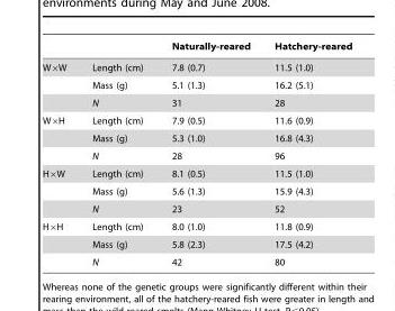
<table><thead><tr><td></td><td></td><td>Naturally-reared</td><td>Hatchery-reared</td></tr></thead><tbody><tr><td rowspan="3">W×W</td><td>Length (cm)</td><td>7.8 (0.7)</td><td>11.5 (1.0)</td></tr><tr><td>Mass (g)</td><td>5.1 (1.3)</td><td>16.2 (5.1)</td></tr><tr><td>N</td><td>31</td><td>28</td></tr><tr><td rowspan="3">W×H</td><td>Length (cm)</td><td>7.9 (0.5)</td><td>11.6 (0.9)</td></tr><tr><td>Mass (g)</td><td>5.3 (1.0)</td><td>16.8 (4.3)</td></tr><tr><td>N</td><td>28</td><td>96</td></tr><tr><td rowspan="3">H×W</td><td>Length (cm)</td><td>8.1 (0.5)</td><td>11.5 (1.0)</td></tr><tr><td>Mass (g)</td><td>5.6 (1.3)</td><td>15.9 (4.3)</td></tr><tr><td>N</td><td>23</td><td>52</td></tr><tr><td rowspan="3">H×H</td><td>Length (cm)</td><td>8.0 (1.0)</td><td>11.8 (0.9)</td></tr><tr><td>Mass (g)</td><td>5.8 (2.3)</td><td>17.5 (4.2)</td></tr><tr><td>N</td><td>42</td><td>80</td></tr></tbody></table>